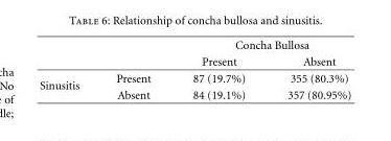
<table><thead><tr><td rowspan="2"></td><td rowspan="2"></td><td colspan="2">Concha Bullosa</td></tr><tr><td>Present</td><td>Absent</td></tr></thead><tbody><tr><td rowspan="2">Sinusitis</td><td>Present</td><td>87 (19.7%)</td><td>355 (80.3%)</td></tr><tr><td>Absent</td><td>84 (19.1%)</td><td>357 (80.95%)</td></tr></tbody></table>